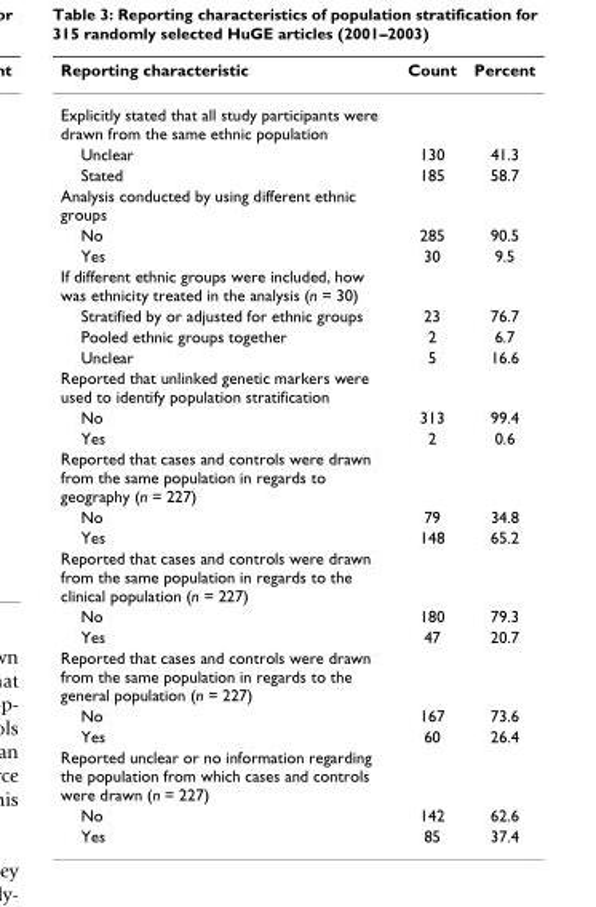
<table><thead><tr><td>Reporting characteristic</td><td>Count</td><td>Percent</td></tr></thead><tbody><tr><td colspan="3">Explicitly stated that all study participants were drawn from the same ethnic population</td></tr><tr><td>Unclear</td><td>130</td><td>41.3</td></tr><tr><td>Stated</td><td>185</td><td>58.7</td></tr><tr><td colspan="3">Analysis conducted by using different ethnic groups</td></tr><tr><td>No</td><td>285</td><td>90.5</td></tr><tr><td>Yes</td><td>30</td><td>9.5</td></tr><tr><td colspan="3">If different ethnic groups were included, how was ethnicity treated in the analysis (n = 30)</td></tr><tr><td>Stratified by or adjusted for ethnic groups</td><td>23</td><td>76.7</td></tr><tr><td>Pooled ethnic groups together</td><td>2</td><td>6.7</td></tr><tr><td>Unclear</td><td>5</td><td>16.6</td></tr><tr><td colspan="3">Reported that unlinked genetic markers were used to identify population stratification</td></tr><tr><td>No</td><td>313</td><td>99.4</td></tr><tr><td>Yes</td><td>2</td><td>0.6</td></tr><tr><td colspan="3">Reported that cases and controls were drawn from the same population in regards to geography (n = 227)</td></tr><tr><td>No</td><td>79</td><td>34.8</td></tr><tr><td>Yes</td><td>148</td><td>65.2</td></tr><tr><td colspan="3">Reported that cases and controls were drawn from the same population in regards to the clinical population (n = 227)</td></tr><tr><td>No</td><td>180</td><td>79.3</td></tr><tr><td>Yes</td><td>47</td><td>20.7</td></tr><tr><td colspan="3">Reported that cases and controls were drawn from the same population in regards to the general population (n = 227)</td></tr><tr><td>No</td><td>167</td><td>73.6</td></tr><tr><td>Yes</td><td>60</td><td>26.4</td></tr><tr><td colspan="3">Reported unclear or no information regarding the population from which cases and controls were drawn (n = 227)</td></tr><tr><td>No</td><td>142</td><td>62.6</td></tr><tr><td>Yes</td><td>85</td><td>37.4</td></tr></tbody></table>